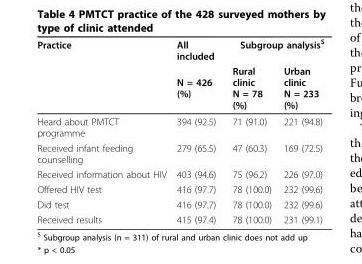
<table><thead><tr><td rowspan="2">Practice</td><td rowspan="2">All included N = 426 (%)</td><td colspan="2">Subgroup analysis<sup>S</sup></td></tr><tr><td>Rural clinic N = 78 (%)</td><td>Urban clinic N = 233 (%)</td></tr></thead><tbody><tr><td>Heard about PMTCT programme</td><td>394 (92.5)</td><td>71 (91.0)</td><td>221 (94.8)</td></tr><tr><td>Received infant feeding counselling</td><td>279 (65.5)</td><td>47 (60.3)</td><td>169 (72.5)</td></tr><tr><td>Received information about HIV</td><td>403 (94.6)</td><td>75 (96.2)</td><td>226 (97.0)</td></tr><tr><td>Offered HIV test</td><td>416 (97.7)</td><td>78 (100.0)</td><td>232 (99.6)</td></tr><tr><td>Did test</td><td>416 (97.7)</td><td>78 (100.0)</td><td>232 (99.6)</td></tr><tr><td>Received results</td><td>415 (97.4)</td><td>78 (100.0)</td><td>231 (99.1)</td></tr></tbody></table>